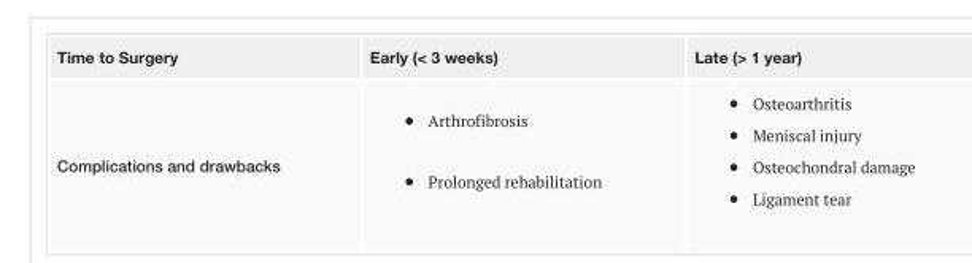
<table><tbody><tr><td>Time to Surgery</td><td>Early (&lt; 3 weeks)</td><td>Late (&gt; 1 year)</td></tr><tr><td>Complications and drawbacks</td><td>Arthrofibrosis Prolonged rehabilitation</td><td>Osteoarthritis Meniscal injury Osteochondral damage Ligament tear</td></tr></tbody></table>